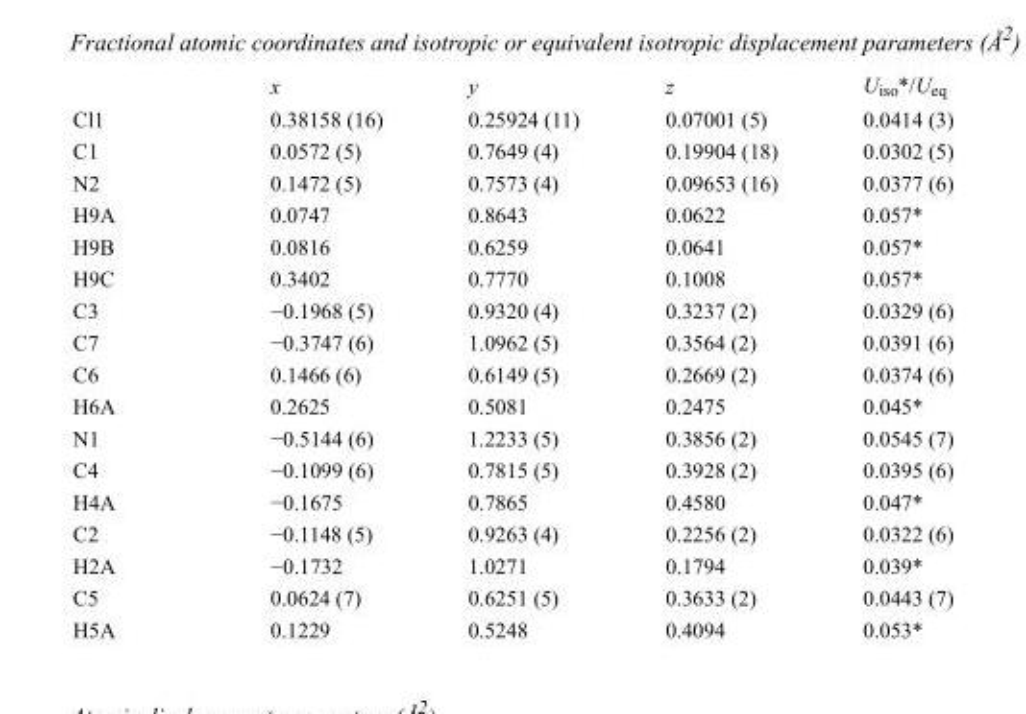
<table><thead><tr><td></td><td>x</td><td>y</td><td>z</td><td>U<sub>iso</sub>*/U<sub>eq</sub></td></tr></thead><tbody><tr><td>Cl1</td><td>0.38158 (16)</td><td>0.25924 (11)</td><td>0.07001 (5)</td><td>0.0414 (3)</td></tr><tr><td>C1</td><td>0.0572 (5)</td><td>0.7649 (4)</td><td>0.19904 (18)</td><td>0.0302 (5)</td></tr><tr><td>N2</td><td>0.1472 (5)</td><td>0.7573 (4)</td><td>0.09653 (16)</td><td>0.0377 (6)</td></tr><tr><td>H9A</td><td>0.0747</td><td>0.8643</td><td>0.0622</td><td>0.057*</td></tr><tr><td>H9B</td><td>0.0816</td><td>0.6259</td><td>0.0641</td><td>0.057*</td></tr><tr><td>H9C</td><td>0.3402</td><td>0.7770</td><td>0.1008</td><td>0.057*</td></tr><tr><td>C3</td><td>−0.1968 (5)</td><td>0.9320 (4)</td><td>0.3237 (2)</td><td>0.0329 (6)</td></tr><tr><td>C7</td><td>−0.3747 (6)</td><td>1.0962 (5)</td><td>0.3564 (2)</td><td>0.0391 (6)</td></tr><tr><td>C6</td><td>0.1466 (6)</td><td>0.6149 (5)</td><td>0.2669 (2)</td><td>0.0374 (6)</td></tr><tr><td>H6A</td><td>0.2625</td><td>0.5081</td><td>0.2475</td><td>0.045*</td></tr><tr><td>N1</td><td>−0.5144 (6)</td><td>1.2233 (5)</td><td>0.3856 (2)</td><td>0.0545 (7)</td></tr><tr><td>C4</td><td>−0.1099 (6)</td><td>0.7815 (5)</td><td>0.3928 (2)</td><td>0.0395 (6)</td></tr><tr><td>H4A</td><td>−0.1675</td><td>0.7865</td><td>0.4580</td><td>0.047*</td></tr><tr><td>C2</td><td>−0.1148 (5)</td><td>0.9263 (4)</td><td>0.2256 (2)</td><td>0.0322 (6)</td></tr><tr><td>H2A</td><td>−0.1732</td><td>1.0271</td><td>0.1794</td><td>0.039*</td></tr><tr><td>C5</td><td>0.0624 (7)</td><td>0.6251 (5)</td><td>0.3633 (2)</td><td>0.0443 (7)</td></tr><tr><td>H5A</td><td>0.1229</td><td>0.5248</td><td>0.4094</td><td>0.053*</td></tr></tbody></table>